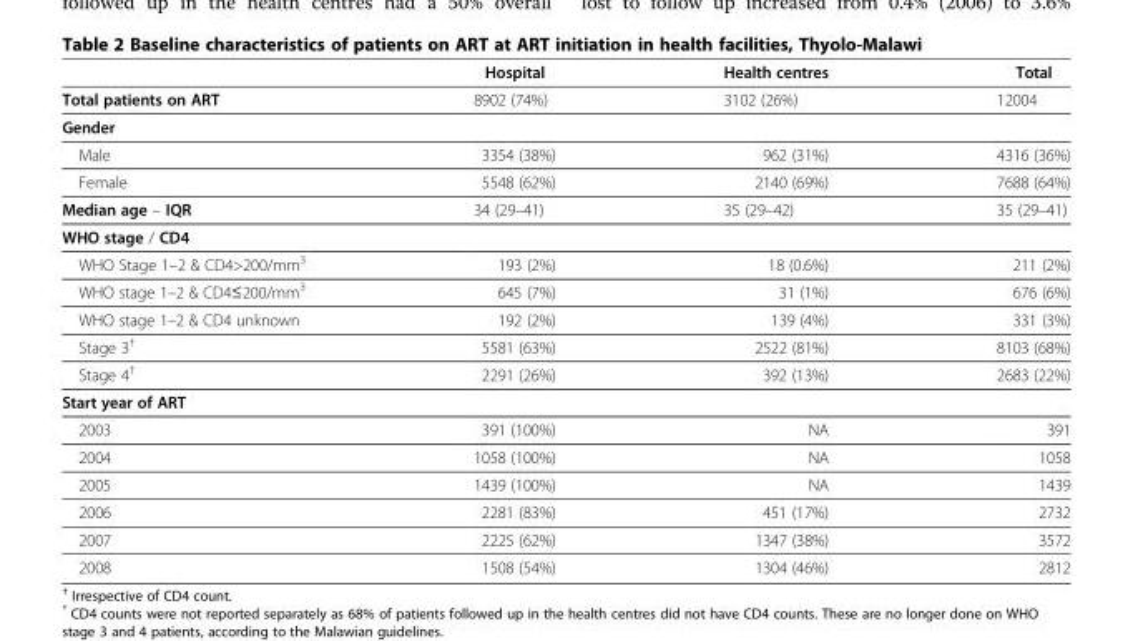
<table><thead><tr><td></td><td>Hospital</td><td>Health centres</td><td>Total</td></tr></thead><tbody><tr><td>Total patients on ART</td><td>8902 (74%)</td><td>3102 (26%)</td><td>12004</td></tr><tr><td colspan="4">Gender</td></tr><tr><td>Male</td><td>3354 (38%)</td><td>962 (31%)</td><td>4316 (36%)</td></tr><tr><td>Female</td><td>5548 (62%)</td><td>2140 (69%)</td><td>7688 (64%)</td></tr><tr><td>Median age – IQR</td><td>34 (29–41)</td><td>35 (29–42)</td><td>35 (29–41)</td></tr><tr><td colspan="4">WHO stage / CD4</td></tr><tr><td>WHO Stage 1–2 &amp; CD4&gt;200/mm<sup>3</sup></td><td>193 (2%)</td><td>18 (0.6%)</td><td>211 (2%)</td></tr><tr><td>WHO stage 1–2 &amp; CD4≤200/mm<sup>3</sup></td><td>645 (7%)</td><td>31 (1%)</td><td>676 (6%)</td></tr><tr><td>WHO stage 1–2 &amp; CD4 unknown</td><td>192 (2%)</td><td>139 (4%)</td><td>331 (3%)</td></tr><tr><td>Stage 3<sup>†</sup></td><td>5581 (63%)</td><td>2522 (81%)</td><td>8103 (68%)</td></tr><tr><td>Stage 4<sup>†</sup></td><td>2291 (26%)</td><td>392 (13%)</td><td>2683 (22%)</td></tr><tr><td colspan="4">Start year of ART</td></tr><tr><td>2003</td><td>391 (100%)</td><td>NA</td><td>391</td></tr><tr><td>2004</td><td>1058 (100%)</td><td>NA</td><td>1058</td></tr><tr><td>2005</td><td>1439 (100%)</td><td>NA</td><td>1439</td></tr><tr><td>2006</td><td>2281 (83%)</td><td>451 (17%)</td><td>2732</td></tr><tr><td>2007</td><td>2225 (62%)</td><td>1347 (38%)</td><td>3572</td></tr><tr><td>2008</td><td>1508 (54%)</td><td>1304 (46%)</td><td>2812</td></tr></tbody></table>